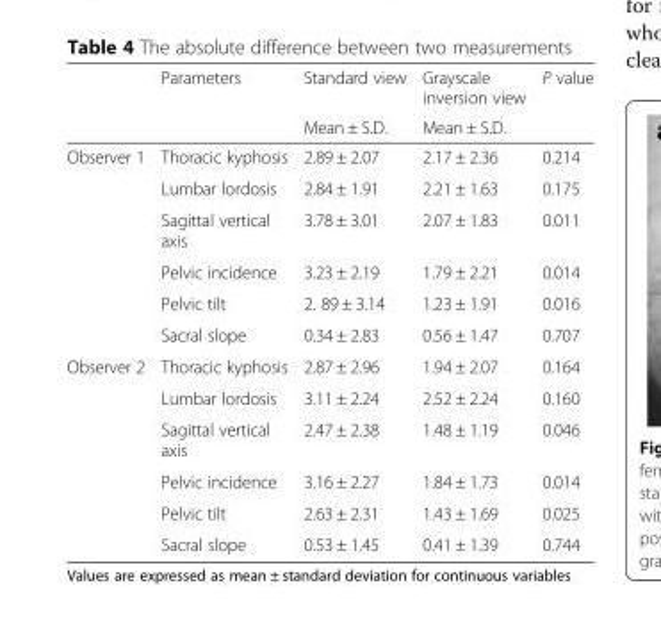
<table><thead><tr><td rowspan="2"></td><td rowspan="2">Parameters</td><td rowspan="2">Standard view Mean ± S.D.</td><td rowspan="2">Grayscale inversion view Mean ± S.D.</td><td rowspan="2">P value</td></tr><tr></tr></thead><tbody><tr><td rowspan="6">Observer 1</td><td>Thoracic kyphosis</td><td>2.89 ± 2.07</td><td>2.17 ± 2.36</td><td>0.214</td></tr><tr><td>Lumbar lordosis</td><td>2.84 ± 1.91</td><td>2.21 ± 1.63</td><td>0.175</td></tr><tr><td>Sagittal vertical axis</td><td>3.78 ± 3.01</td><td>2.07 ± 1.83</td><td>0.011</td></tr><tr><td>Pelvic incidence</td><td>3.23 ± 2.19</td><td>1.79 ± 2.21</td><td>0.014</td></tr><tr><td>Pelvic tilt</td><td>2. 89 ± 3.14</td><td>1.23 ± 1.91</td><td>0.016</td></tr><tr><td>Sacral slope</td><td>0.34 ± 2.83</td><td>0.56 ± 1.47</td><td>0.707</td></tr><tr><td rowspan="6">Observer 2</td><td>Thoracic kyphosis</td><td>2.87 ± 2.96</td><td>1.94 ± 2.07</td><td>0.164</td></tr><tr><td>Lumbar lordosis</td><td>3.11 ± 2.24</td><td>2.52 ± 2.24</td><td>0.160</td></tr><tr><td>Sagittal vertical axis</td><td>2.47 ± 2.38</td><td>1.48 ± 1.19</td><td>0.046</td></tr><tr><td>Pelvic incidence</td><td>3.16 ± 2.27</td><td>1.84 ± 1.73</td><td>0.014</td></tr><tr><td>Pelvic tilt</td><td>2.63 ± 2.31</td><td>1.43 ± 1.69</td><td>0.025</td></tr><tr><td>Sacral slope</td><td>0.53 ± 1.45</td><td>0.41 ± 1.39</td><td>0.744</td></tr></tbody></table>